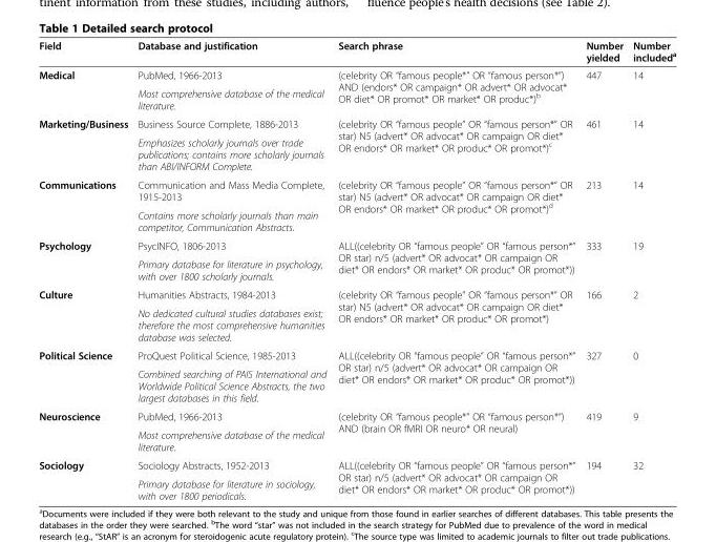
<table><thead><tr><td>Field</td><td>Database and justification</td><td>Search phrase</td><td>Number yielded</td><td>Number included<sup>a</sup></td></tr></thead><tbody><tr><td rowspan="2">Medical</td><td>PubMed, 1966-2013</td><td rowspan="2">(celebrity OR “famous people*” OR “famous person*”) AND (endors* OR campaign* OR advert* OR advocat* OR diet* OR promot* OR market* OR produc*)<sup>b</sup></td><td rowspan="2">447</td><td rowspan="2">14</td></tr><tr><td>Most comprehensive database of the medical literature.</td></tr><tr><td rowspan="2">Marketing/Business</td><td>Business Source Complete, 1886-2013</td><td rowspan="2">(celebrity OR “famous people” OR “famous person*” OR star) N5 (advert* OR advocat* OR campaign OR diet* OR endors* OR market* OR produc* OR promot*)<sup>c</sup></td><td rowspan="2">461</td><td rowspan="2">14</td></tr><tr><td>Emphasizes scholarly journals over trade publications; contains more scholarly journals than ABI/INFORM Complete.</td></tr><tr><td rowspan="2">Communications</td><td>Communication and Mass Media Complete, 1915-2013</td><td rowspan="2">(celebrity OR “famous people” OR “famous person*” OR star) N5 (advert* OR advocat* OR campaign OR diet* OR endors* OR market* OR produc* OR promot*)<sup>d</sup></td><td rowspan="2">213</td><td rowspan="2">14</td></tr><tr><td>Contains more scholarly journals than main competitor, Communication Abstracts.</td></tr><tr><td rowspan="2">Psychology</td><td>PsycINFO, 1806-2013</td><td rowspan="2">ALL((celebrity OR “famous people” OR “famous person*” OR star) n/5 (advert* OR advocat* OR campaign OR diet* OR endors* OR market* OR produc* OR promot*))</td><td rowspan="2">333</td><td rowspan="2">19</td></tr><tr><td>Primary database for literature in psychology, with over 1800 scholarly journals.</td></tr><tr><td rowspan="2">Culture</td><td>Humanities Abstracts, 1984-2013</td><td rowspan="2">(celebrity OR “famous people” OR “famous person*” OR star) N5 (advert* OR advocat* OR campaign OR diet* OR endors* OR market* OR produc* OR promot*)</td><td rowspan="2">166</td><td rowspan="2">2</td></tr><tr><td>No dedicated cultural studies databases exist; therefore the most comprehensive humanities database was selected.</td></tr><tr><td rowspan="2">Political Science</td><td>ProQuest Political Science, 1985-2013</td><td rowspan="2">ALL((celebrity OR “famous people” OR “famous person*” OR star) n/5 (advert* OR advocat* OR campaign OR diet* OR endors* OR market* OR produc* OR promot*))</td><td rowspan="2">327</td><td rowspan="2">0</td></tr><tr><td>Combined searching of PAIS International and Worldwide Political Science Abstracts, the two largest databases in this field.</td></tr><tr><td rowspan="2">Neuroscience</td><td>PubMed, 1966-2013</td><td rowspan="2">(celebrity OR “famous people*” OR “famous person*”) AND (brain OR fMRI OR neuro* OR neural)</td><td rowspan="2">419</td><td rowspan="2">9</td></tr><tr><td>Most comprehensive database of the medical literature.</td></tr><tr><td rowspan="2">Sociology</td><td>Sociology Abstracts, 1952-2013</td><td rowspan="2">ALL((celebrity OR “famous people” OR “famous person*” OR star) n/5 (advert* OR advocat* OR campaign OR diet* OR endors* OR market* OR produc* OR promot*))</td><td rowspan="2">194</td><td rowspan="2">32</td></tr><tr><td>Primary database for literature in sociology, with over 1800 periodicals.</td></tr></tbody></table>